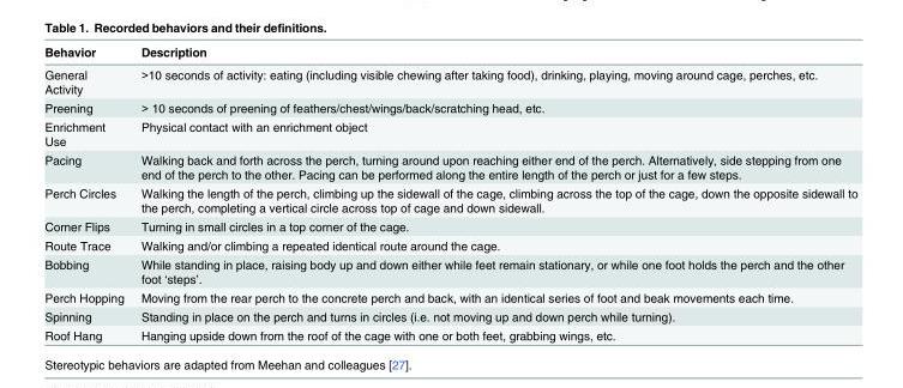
<table><thead><tr><td>Behavior</td><td>Description</td></tr></thead><tbody><tr><td>General Activity</td><td>&gt;10 seconds of activity: eating (including visible chewing after taking food), drinking, playing, moving around cage, perches, etc.</td></tr><tr><td>Preening</td><td>&gt; 10 seconds of preening of feathers/chest/wings/back/scratching head, etc.</td></tr><tr><td>Enrichment Use</td><td>Physical contact with an enrichment object</td></tr><tr><td>Pacing</td><td>Walking back and forth across the perch, turning around upon reaching either end of the perch. Alternatively, side stepping from one end of the perch to the other. Pacing can be performed along the entire length of the perch or just for a few steps.</td></tr><tr><td>Perch Circles</td><td>Walking the length of the perch, climbing up the sidewall of the cage, climbing across the top of the cage, down the opposite sidewall to the perch, completing a vertical circle across top of cage and down sidewall.</td></tr><tr><td>Corner Flips</td><td>Turning in small circles in a top corner of the cage.</td></tr><tr><td>Route Trace</td><td>Walking and/or climbing a repeated identical route around the cage.</td></tr><tr><td>Bobbing</td><td>While standing in place, raising body up and down either while feet remain stationary, or while one foot holds the perch and the other foot ‘steps’.</td></tr><tr><td>Perch Hopping</td><td>Moving from the rear perch to the concrete perch and back, with an identical series of foot and beak movements each time.</td></tr><tr><td>Spinning</td><td>Standing in place on the perch and turns in circles (i.e. not moving up and down perch while turning).</td></tr><tr><td>Roof Hang</td><td>Hanging upside down from the roof of the cage with one or both feet, grabbing wings, etc.</td></tr></tbody></table>